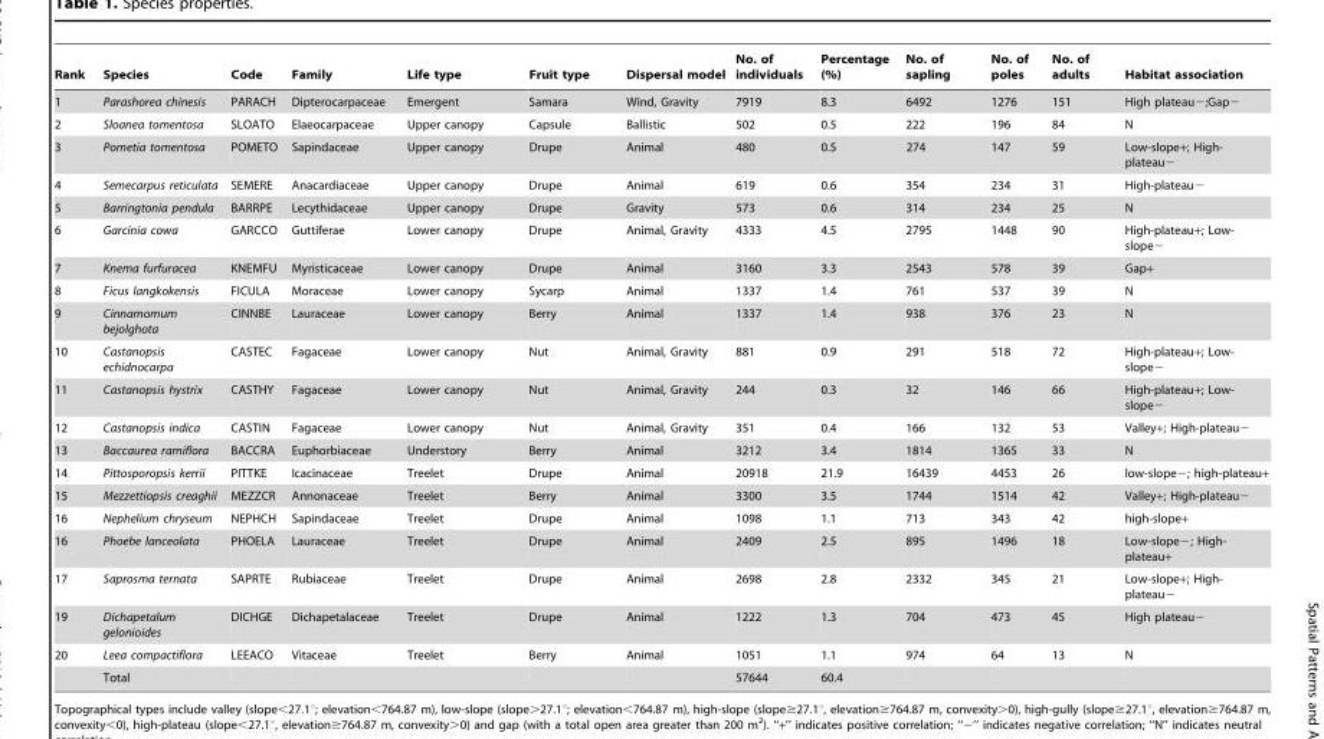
<table><thead><tr><td>Rank</td><td>Species</td><td>Code</td><td>Family</td><td>Life type</td><td>Fruit type</td><td>Dispersal model</td><td>No. of individuals</td><td>Percentage (%)</td><td>No. of sapling</td><td>No. of poles</td><td>No. of adults</td><td>Habitat association</td></tr></thead><tbody><tr><td>1</td><td>Parashorea chinesis</td><td>PARACH</td><td>Dipterocarpaceae</td><td>Emergent</td><td>Samara</td><td>Wind, Gravity</td><td>7919</td><td>8.3</td><td>6492</td><td>1276</td><td>151</td><td>High plateau−;Gap−</td></tr><tr><td>2</td><td>Sloanea tomentosa</td><td>SLOATO</td><td>Elaeocarpaceae</td><td>Upper canopy</td><td>Capsule</td><td>Ballistic</td><td>502</td><td>0.5</td><td>222</td><td>196</td><td>84</td><td>N</td></tr><tr><td>3</td><td>Pometia tomentosa</td><td>POMETO</td><td>Sapindaceae</td><td>Upper canopy</td><td>Drupe</td><td>Animal</td><td>480</td><td>0.5</td><td>274</td><td>147</td><td>59</td><td>Low-slope+; High- plateau−</td></tr><tr><td>4</td><td>Semecarpus reticulata</td><td>SEMERE</td><td>Anacardiaceae</td><td>Upper canopy</td><td>Drupe</td><td>Animal</td><td>619</td><td>0.6</td><td>354</td><td>234</td><td>31</td><td>High-plateau−</td></tr><tr><td>5</td><td>Barringtonia pendula</td><td>BARRPE</td><td>Lecythidaceae</td><td>Upper canopy</td><td>Drupe</td><td>Gravity</td><td>573</td><td>0.6</td><td>314</td><td>234</td><td>25</td><td>N</td></tr><tr><td>6</td><td>Garcinia cowa</td><td>GARCCO</td><td>Guttiferae</td><td>Lower canopy</td><td>Drupe</td><td>Animal, Gravity</td><td>4333</td><td>4.5</td><td>2795</td><td>1448</td><td>90</td><td>High-plateau+; Low- slope−</td></tr><tr><td>7</td><td>Knema furfuracea</td><td>KNEMFU</td><td>Myristicaceae</td><td>Lower canopy</td><td>Drupe</td><td>Animal</td><td>3160</td><td>3.3</td><td>2543</td><td>578</td><td>39</td><td>Gap+</td></tr><tr><td>8</td><td>Ficus langkokensis</td><td>FICULA</td><td>Moraceae</td><td>Lower canopy</td><td>Sycarp</td><td>Animal</td><td>1337</td><td>1.4</td><td>761</td><td>537</td><td>39</td><td>N</td></tr><tr><td>9</td><td>Cinnamomum bejolghota</td><td>CINNBE</td><td>Lauraceae</td><td>Lower canopy</td><td>Berry</td><td>Animal</td><td>1337</td><td>1.4</td><td>938</td><td>376</td><td>23</td><td>N</td></tr><tr><td>10</td><td>Castanopsis echidnocarpa</td><td>CASTEC</td><td>Fagaceae</td><td>Lower canopy</td><td>Nut</td><td>Animal, Gravity</td><td>881</td><td>0.9</td><td>291</td><td>518</td><td>72</td><td>High-plateau+; Low- slope−</td></tr><tr><td>11</td><td>Castanopsis hystrix</td><td>CASTHY</td><td>Fagaceae</td><td>Lower canopy</td><td>Nut</td><td>Animal, Gravity</td><td>244</td><td>0.3</td><td>32</td><td>146</td><td>66</td><td>High-plateau+; Low- slope−</td></tr><tr><td>12</td><td>Castanopsis indica</td><td>CASTIN</td><td>Fagaceae</td><td>Lower canopy</td><td>Nut</td><td>Animal, Gravity</td><td>351</td><td>0.4</td><td>166</td><td>132</td><td>53</td><td>Valley+; High-plateau−</td></tr><tr><td>13</td><td>Baccaurea ramiflora</td><td>BACCRA</td><td>Euphorbiaceae</td><td>Understory</td><td>Berry</td><td>Animal</td><td>3212</td><td>3.4</td><td>1814</td><td>1365</td><td>33</td><td>N</td></tr><tr><td>14</td><td>Pittosporopsis kerrii</td><td>PITTKE</td><td>Icacinaceae</td><td>Treelet</td><td>Drupe</td><td>Animal</td><td>20918</td><td>21.9</td><td>16439</td><td>4453</td><td>26</td><td>low-slope−; high-plateau+</td></tr><tr><td>15</td><td>Mezzettiopsis creaghii</td><td>MEZZCR</td><td>Annonaceae</td><td>Treelet</td><td>Berry</td><td>Animal</td><td>3300</td><td>3.5</td><td>1744</td><td>1514</td><td>42</td><td>Valley+; High-plateau−</td></tr><tr><td>16</td><td>Nephelium chryseum</td><td>NEPHCH</td><td>Sapindaceae</td><td>Treelet</td><td>Drupe</td><td>Animal</td><td>1098</td><td>1.1</td><td>713</td><td>343</td><td>42</td><td>high-slope+</td></tr><tr><td>16</td><td>Phoebe lanceolata</td><td>PHOELA</td><td>Lauraceae</td><td>Treelet</td><td>Drupe</td><td>Animal</td><td>2409</td><td>2.5</td><td>895</td><td>1496</td><td>18</td><td>Low-slope−; High- plateau+</td></tr><tr><td>17</td><td>Saprosma ternata</td><td>SAPRTE</td><td>Rubiaceae</td><td>Treelet</td><td>Drupe</td><td>Animal</td><td>2698</td><td>2.8</td><td>2332</td><td>345</td><td>21</td><td>Low-slope+; High- plateau−</td></tr><tr><td>19</td><td>Dichapetalum gelonioides</td><td>DICHGE</td><td>Dichapetalaceae</td><td>Treelet</td><td>Drupe</td><td>Animal</td><td>1222</td><td>1.3</td><td>704</td><td>473</td><td>45</td><td>High plateau−</td></tr><tr><td rowspan="2">20</td><td>Leea compactiflora</td><td>LEEACO</td><td>Vitaceae</td><td>Treelet</td><td>Berry</td><td>Animal</td><td>1051</td><td>1.1</td><td>974</td><td>64</td><td>13</td><td>N</td></tr><tr><td>Total</td><td></td><td></td><td></td><td></td><td></td><td>57644</td><td>60.4</td><td></td><td></td><td></td><td></td></tr></tbody></table>